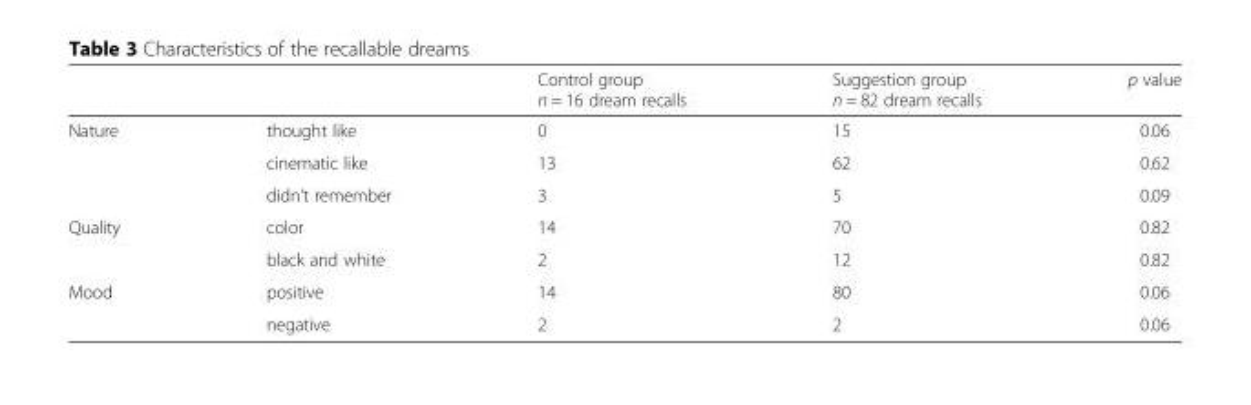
<table><thead><tr><td></td><td></td><td>Control group n = 16 dream recalls</td><td>Suggestion group n = 82 dream recalls</td><td>p value</td></tr></thead><tbody><tr><td rowspan="3">Nature</td><td>thought like</td><td>0</td><td>15</td><td>0.06</td></tr><tr><td>cinematic like</td><td>13</td><td>62</td><td>0.62</td></tr><tr><td>didn’t remember</td><td>3</td><td>5</td><td>0.09</td></tr><tr><td rowspan="2">Quality</td><td>color</td><td>14</td><td>70</td><td>0.82</td></tr><tr><td>black and white</td><td>2</td><td>12</td><td>0.82</td></tr><tr><td rowspan="2">Mood</td><td>positive</td><td>14</td><td>80</td><td>0.06</td></tr><tr><td>negative</td><td>2</td><td>2</td><td>0.06</td></tr></tbody></table>